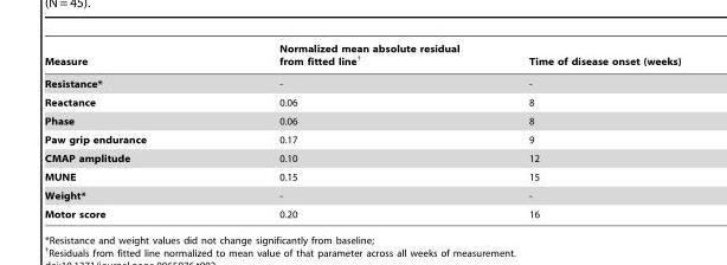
<table><thead><tr><td>Measure</td><td>Normalized mean absolute residual from fitted line†</td><td>Time of disease onset (weeks)</td></tr></thead><tbody><tr><td>Resistance*</td><td>-</td><td>-</td></tr><tr><td>Reactance</td><td>0.06</td><td>8</td></tr><tr><td>Phase</td><td>0.06</td><td>8</td></tr><tr><td>Paw grip endurance</td><td>0.17</td><td>9</td></tr><tr><td>CMAP amplitude</td><td>0.10</td><td>12</td></tr><tr><td>MUNE</td><td>0.15</td><td>15</td></tr><tr><td>Weight*</td><td>-</td><td>-</td></tr><tr><td>Motor score</td><td>0.20</td><td>16</td></tr></tbody></table>